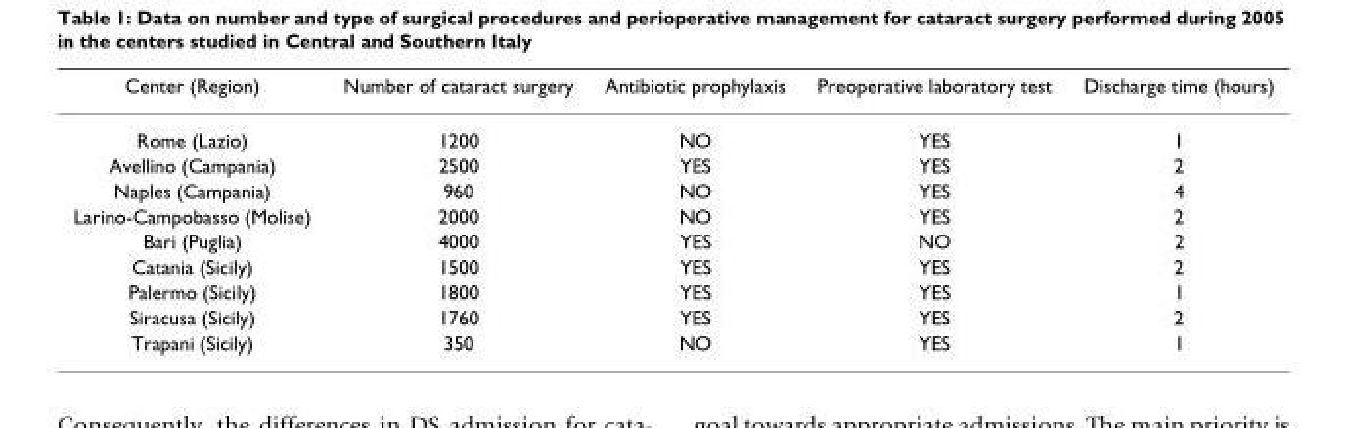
<table><thead><tr><td>Center (Region)</td><td>Number of cataract surgery</td><td>Antibiotic prophylaxis</td><td>Preoperative laboratory test</td><td>Discharge time (hours)</td></tr></thead><tbody><tr><td>Rome (Lazio)</td><td>1200</td><td>NO</td><td>YES</td><td>1</td></tr><tr><td>Avellino (Campania)</td><td>2500</td><td>YES</td><td>YES</td><td>2</td></tr><tr><td>Naples (Campania)</td><td>960</td><td>NO</td><td>YES</td><td>4</td></tr><tr><td>Larino-Campobasso (Molise)</td><td>2000</td><td>NO</td><td>YES</td><td>2</td></tr><tr><td>Bari (Puglia)</td><td>4000</td><td>YES</td><td>NO</td><td>2</td></tr><tr><td>Catania (Sicily)</td><td>1500</td><td>YES</td><td>YES</td><td>2</td></tr><tr><td>Palermo (Sicily)</td><td>1800</td><td>YES</td><td>YES</td><td>1</td></tr><tr><td>Siracusa (Sicily)</td><td>1760</td><td>YES</td><td>YES</td><td>2</td></tr><tr><td>Trapani (Sicily)</td><td>350</td><td>NO</td><td>YES</td><td>1</td></tr></tbody></table>